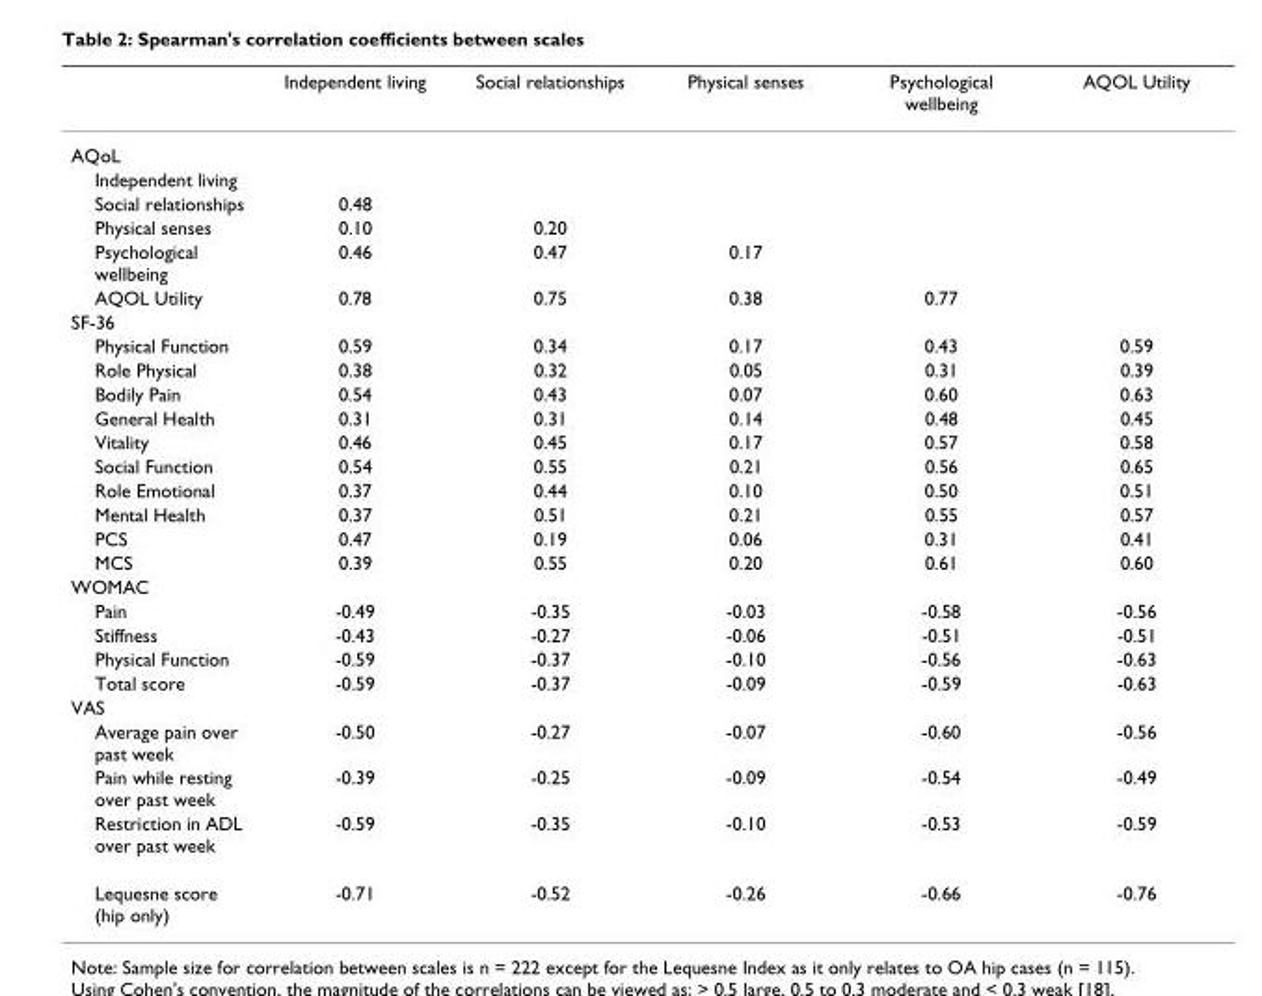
<table><thead><tr><td></td><td>Independent living</td><td>Social relationships</td><td>Physical senses</td><td>Psychological wellbeing</td><td>AQOL Utility</td></tr></thead><tbody><tr><td colspan="6">AQoL</td></tr><tr><td colspan="6">Independent living</td></tr><tr><td>Social relationships</td><td>0.48</td><td></td><td></td><td></td><td></td></tr><tr><td>Physical senses</td><td>0.10</td><td>0.20</td><td></td><td></td><td></td></tr><tr><td>Psychological wellbeing</td><td>0.46</td><td>0.47</td><td>0.17</td><td></td><td></td></tr><tr><td>AQOL Utility</td><td>0.78</td><td>0.75</td><td>0.38</td><td>0.77</td><td></td></tr><tr><td colspan="6">SF-36</td></tr><tr><td>Physical Function</td><td>0.59</td><td>0.34</td><td>0.17</td><td>0.43</td><td>0.59</td></tr><tr><td>Role Physical</td><td>0.38</td><td>0.32</td><td>0.05</td><td>0.31</td><td>0.39</td></tr><tr><td>Bodily Pain</td><td>0.54</td><td>0.43</td><td>0.07</td><td>0.60</td><td>0.63</td></tr><tr><td>General Health</td><td>0.31</td><td>0.31</td><td>0.14</td><td>0.48</td><td>0.45</td></tr><tr><td>Vitality</td><td>0.46</td><td>0.45</td><td>0.17</td><td>0.57</td><td>0.58</td></tr><tr><td>Social Function</td><td>0.54</td><td>0.55</td><td>0.21</td><td>0.56</td><td>0.65</td></tr><tr><td>Role Emotional</td><td>0.37</td><td>0.44</td><td>0.10</td><td>0.50</td><td>0.51</td></tr><tr><td>Mental Health</td><td>0.37</td><td>0.51</td><td>0.21</td><td>0.55</td><td>0.57</td></tr><tr><td>PCS</td><td>0.47</td><td>0.19</td><td>0.06</td><td>0.31</td><td>0.41</td></tr><tr><td>MCS</td><td>0.39</td><td>0.55</td><td>0.20</td><td>0.61</td><td>0.60</td></tr><tr><td colspan="6">WOMAC</td></tr><tr><td>Pain</td><td>-0.49</td><td>-0.35</td><td>-0.03</td><td>-0.58</td><td>-0.56</td></tr><tr><td>Stiffness</td><td>-0.43</td><td>-0.27</td><td>-0.06</td><td>-0.51</td><td>-0.51</td></tr><tr><td>Physical Function</td><td>-0.59</td><td>-0.37</td><td>-0.10</td><td>-0.56</td><td>-0.63</td></tr><tr><td>Total score</td><td>-0.59</td><td>-0.37</td><td>-0.09</td><td>-0.59</td><td>-0.63</td></tr><tr><td colspan="6">VAS</td></tr><tr><td>Average pain over past week</td><td>-0.50</td><td>-0.27</td><td>-0.07</td><td>-0.60</td><td>-0.56</td></tr><tr><td>Pain while resting over past week</td><td>-0.39</td><td>-0.25</td><td>-0.09</td><td>-0.54</td><td>-0.49</td></tr><tr><td>Restriction in ADL over past week</td><td>-0.59</td><td>-0.35</td><td>-0.10</td><td>-0.53</td><td>-0.59</td></tr><tr><td>Lequesne score (hip only)</td><td>-0.71</td><td>-0.52</td><td>-0.26</td><td>-0.66</td><td>-0.76</td></tr></tbody></table>